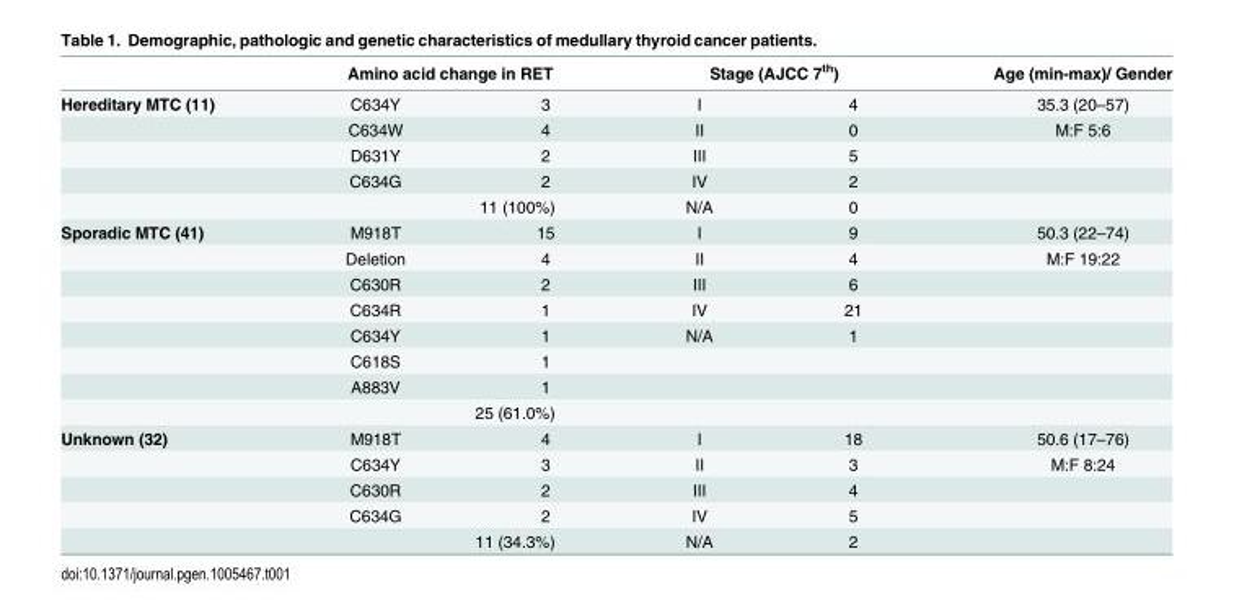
<table><thead><tr><td rowspan="2">Hereditary MTC (11)</td><td colspan="2">Amino acid change in RET</td><td colspan="2">Stage (AJCC 7<sup>th</sup>)</td><td rowspan="2">Age (min-max)/ Gender 35.3 (20–57)</td></tr><tr><td>C634Y</td><td>3</td><td>I</td><td>4</td></tr></thead><tbody><tr><td></td><td>C634W</td><td>4</td><td>II</td><td>0</td><td>M:F 5:6</td></tr><tr><td></td><td>D631Y</td><td>2</td><td>III</td><td>5</td><td></td></tr><tr><td></td><td>C634G</td><td>2</td><td>IV</td><td>2</td><td></td></tr><tr><td></td><td colspan="2">11 (100%)</td><td>N/A</td><td>0</td><td></td></tr><tr><td rowspan="8">Sporadic MTC (41)</td><td>M918T</td><td>15</td><td>I</td><td>9</td><td>50.3 (22–74)</td></tr><tr><td>Deletion</td><td>4</td><td>II</td><td>4</td><td>M:F 19:22</td></tr><tr><td>C630R</td><td>2</td><td>III</td><td>6</td><td></td></tr><tr><td>C634R</td><td>1</td><td>IV</td><td>21</td><td></td></tr><tr><td>C634Y</td><td>1</td><td>N/A</td><td>1</td><td></td></tr><tr><td>C618S</td><td>1</td><td></td><td></td><td></td></tr><tr><td>A883V</td><td>1</td><td></td><td></td><td></td></tr><tr><td colspan="2">25 (61.0%)</td><td></td><td></td><td></td></tr><tr><td rowspan="5">Unknown (32)</td><td>M918T</td><td>4</td><td>I</td><td>18</td><td>50.6 (17–76)</td></tr><tr><td>C634Y</td><td>3</td><td>II</td><td>3</td><td>M:F 8:24</td></tr><tr><td>C630R</td><td>2</td><td>III</td><td>4</td><td></td></tr><tr><td>C634G</td><td>2</td><td>IV</td><td>5</td><td></td></tr><tr><td colspan="2">11 (34.3%)</td><td>N/A</td><td>2</td><td></td></tr></tbody></table>